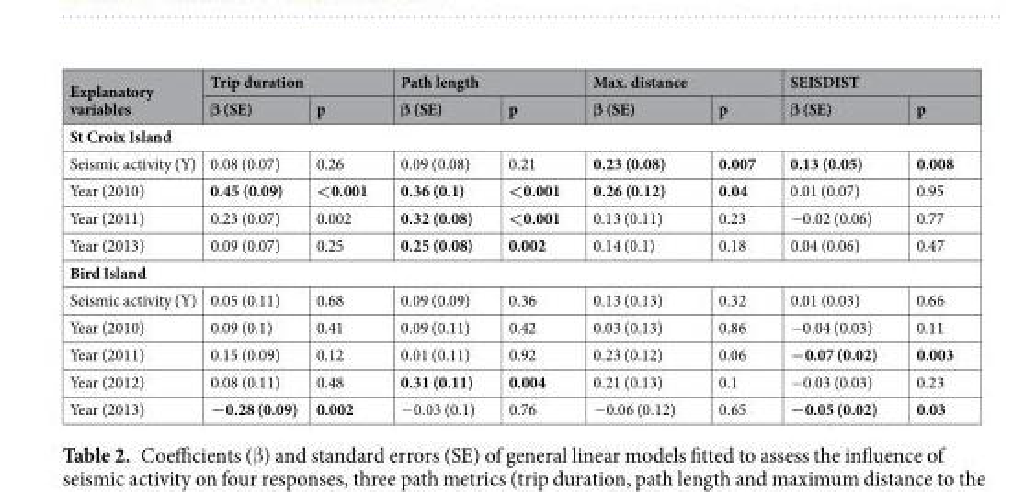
<table><thead><tr><td rowspan="2">Explanatory variables</td><td colspan="2">Trip duration</td><td colspan="2">Path length</td><td colspan="2">Max. distance</td><td colspan="2">SEISDIST</td></tr><tr><td>β (SE)</td><td>p</td><td>β (SE)</td><td>p</td><td>β (SE)</td><td>p</td><td>β (SE)</td><td>p</td></tr></thead><tbody><tr><td colspan="9">St Croix Island</td></tr><tr><td>Seismic activity (Y)</td><td>0.08 (0.07)</td><td>0.26</td><td>0.09 (0.08)</td><td>0.21</td><td>0.23 (0.08)</td><td>0.007</td><td>0.13 (0.05)</td><td>0.008</td></tr><tr><td>Year (2010)</td><td>0.45 (0.09)</td><td>&lt;0.001</td><td>0.36 (0.1)</td><td>&lt;0.001</td><td>0.26 (0.12)</td><td>0.04</td><td>0.01 (0.07)</td><td>0.95</td></tr><tr><td>Year (2011)</td><td>0.23 (0.07)</td><td>0.002</td><td>0.32 (0.08)</td><td>&lt;0.001</td><td>0.13 (0.11)</td><td>0.23</td><td>−0.02 (0.06)</td><td>0.77</td></tr><tr><td>Year (2013)</td><td>0.09 (0.07)</td><td>0.25</td><td>0.25 (0.08)</td><td>0.002</td><td>0.14 (0.1)</td><td>0.18</td><td>0.04 (0.06)</td><td>0.47</td></tr><tr><td colspan="9">Bird Island</td></tr><tr><td>Seismic activity (Y)</td><td>0.05 (0.11)</td><td>0.68</td><td>0.09 (0.09)</td><td>0.36</td><td>0.13 (0.13)</td><td>0.32</td><td>0.01 (0.03)</td><td>0.66</td></tr><tr><td>Year (2010)</td><td>0.09 (0.1)</td><td>0.41</td><td>0.09 (0.11)</td><td>0.42</td><td>0.03 (0.13)</td><td>0.86</td><td>−0.04 (0.03)</td><td>0.11</td></tr><tr><td>Year (2011)</td><td>0.15 (0.09)</td><td>0.12</td><td>0.01 (0.11)</td><td>0.92</td><td>0.23 (0.12)</td><td>0.06</td><td>−0.07 (0.02)</td><td>0.003</td></tr><tr><td>Year (2012)</td><td>0.08 (0.11)</td><td>0.48</td><td>0.31 (0.11)</td><td>0.004</td><td>0.21 (0.13)</td><td>0.1</td><td>−0.03 (0.03)</td><td>0.23</td></tr><tr><td>Year (2013)</td><td>−0.28 (0.09)</td><td>0.002</td><td>−0.03 (0.1)</td><td>0.76</td><td>−0.06 (0.12)</td><td>0.65</td><td>−0.05 (0.02)</td><td>0.03</td></tr></tbody></table>